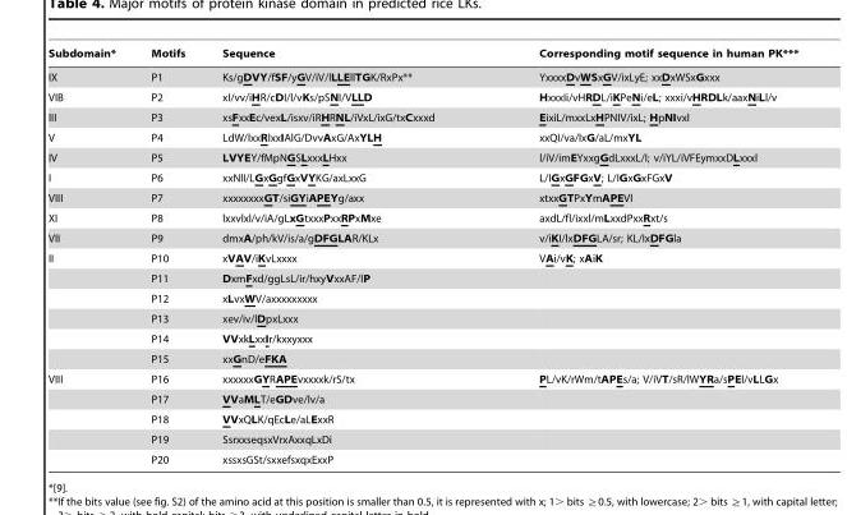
<table><thead><tr><td>Subdomain*</td><td>Motifs</td><td>Sequence</td><td>Corresponding motif sequence in human PK***</td></tr></thead><tbody><tr><td>IX</td><td>P1</td><td>Ks/gDVY/fSF/yGV/iV/lLLEllTGK/RxPx**</td><td>YxxxxDvWSxGV/ixLyE; xxDxWSxGxxx</td></tr><tr><td>VIB</td><td>P2</td><td>xI/vv/iHR/cDI/l/vKs/pSNI/VLLD</td><td>HxxxIi/vHRDL/iKPeNi/eL; xxxi/vHRDLk/aaxNiLl/v</td></tr><tr><td>III</td><td>P3</td><td>xsFxxEc/vexL/isxv/iRHRNL/iVxL/ixG/txCxxxd</td><td>EixiL/mxxLxHPNIV/ixL; HpNIvxl</td></tr><tr><td>V</td><td>P4</td><td>LdW/lxxRlxxIAlG/DvvAxG/AxYLH</td><td>xxQI/va/lxG/aL/mxYL</td></tr><tr><td>IV</td><td>P5</td><td>LVYEY/fMpNGSLxxxLHxx</td><td>l/iV/imEYxxgGdLxxxL/I; v/iYL/iVFEymxxDLxxxl</td></tr><tr><td>I</td><td>P6</td><td>xxNlI/LGxGgfGxVYKG/axLxxG</td><td>L/IGxGFGxV; L/IGxGxFGxV</td></tr><tr><td>VIII</td><td>P7</td><td>xxxxxxxxGT/siGYiAPEYg/axx</td><td>xtxxGTPxYmAPEVl</td></tr><tr><td>XI</td><td>P8</td><td>lxxvlxl/v/iA/gLxGtxxxPxxRPxMxe</td><td>axdL/fl/ixxl/mLxxdPxxRxt/s</td></tr><tr><td>VII</td><td>P9</td><td>dmxA/ph/kV/is/a/gDFGLAR/KLx</td><td>v/iKI/lxDFGLA/sr; KL/IxDFGla</td></tr><tr><td rowspan="6">II</td><td>P10</td><td>xVAV/iKvLxxxx</td><td>VAi/vK; xAiK</td></tr><tr><td>P11</td><td>DxmFxd/ggLsL/ir/hxyVxxAF/lP</td><td></td></tr><tr><td>P12</td><td>xLvxWV/axxxxxxxxx</td><td></td></tr><tr><td>P13</td><td>xev/iv/lDpxLxxx</td><td></td></tr><tr><td>P14</td><td>VVxkLxxIr/kxxyxxx</td><td></td></tr><tr><td>P15</td><td>xxGnD/eFKA</td><td></td></tr><tr><td rowspan="5">VIII</td><td>P16</td><td>xxxxxxGYRAPEvxxxxk/rS/tx</td><td>PL/vK/rWm/tAPEs/a; V/iVT/sR/lWYRa/sPEl/vLLGx</td></tr><tr><td>P17</td><td>VVaMLT/eGDve/lv/a</td><td></td></tr><tr><td>P18</td><td>VVxQLK/qEcLe/aLExxR</td><td></td></tr><tr><td>P19</td><td>SsrxxseqsxVrxAxxqLxDi</td><td></td></tr><tr><td>P20</td><td>xssxsGSt/sxxefsxqxExxP</td><td></td></tr></tbody></table>